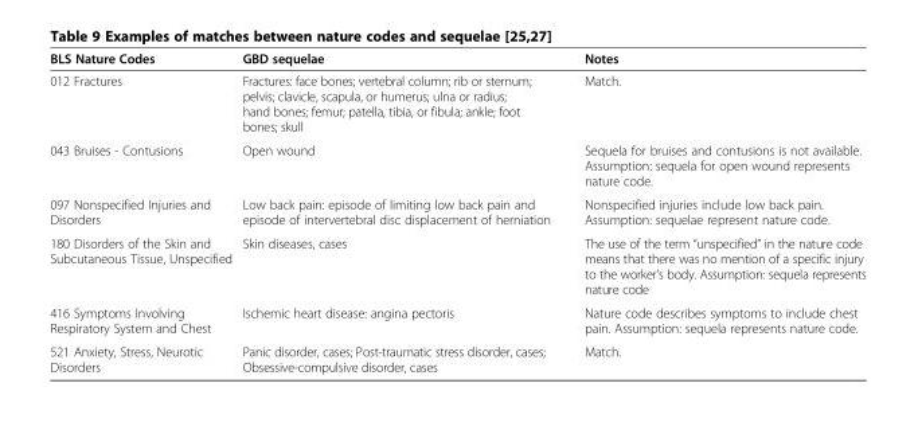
<table><thead><tr><td>BLS Nature Codes</td><td>GBD sequelae</td><td>Notes</td></tr></thead><tbody><tr><td>012 Fractures</td><td>Fractures: face bones; vertebral column; rib or sternum; pelvis; clavicle, scapula, or humerus; ulna or radius; hand bones; femur; patella, tibia, or fibula; ankle; foot bones; skull</td><td>Match.</td></tr><tr><td>043 Bruises - Contusions</td><td>Open wound</td><td>Sequela for bruises and contusions is not available. Assumption: sequela for open wound represents nature code.</td></tr><tr><td>097 Nonspecified Injuries and Disorders</td><td>Low back pain: episode of limiting low back pain and episode of intervertebral disc displacement of herniation</td><td>Nonspecified injuries include low back pain. Assumption: sequelae represent nature code.</td></tr><tr><td>180 Disorders of the Skin and Subcutaneous Tissue, Unspecified</td><td>Skin diseases, cases</td><td>The use of the term “unspecified” in the nature code means that there was no mention of a specific injury to the worker’s body. Assumption: sequela represents nature code</td></tr><tr><td>416 Symptoms Involving Respiratory System and Chest</td><td>Ischemic heart disease: angina pectoris</td><td>Nature code describes symptoms to include chest pain. Assumption: sequela represents nature code.</td></tr><tr><td>521 Anxiety, Stress, Neurotic Disorders</td><td>Panic disorder, cases; Post-traumatic stress disorder, cases; Obsessive-compulsive disorder, cases</td><td>Match.</td></tr></tbody></table>